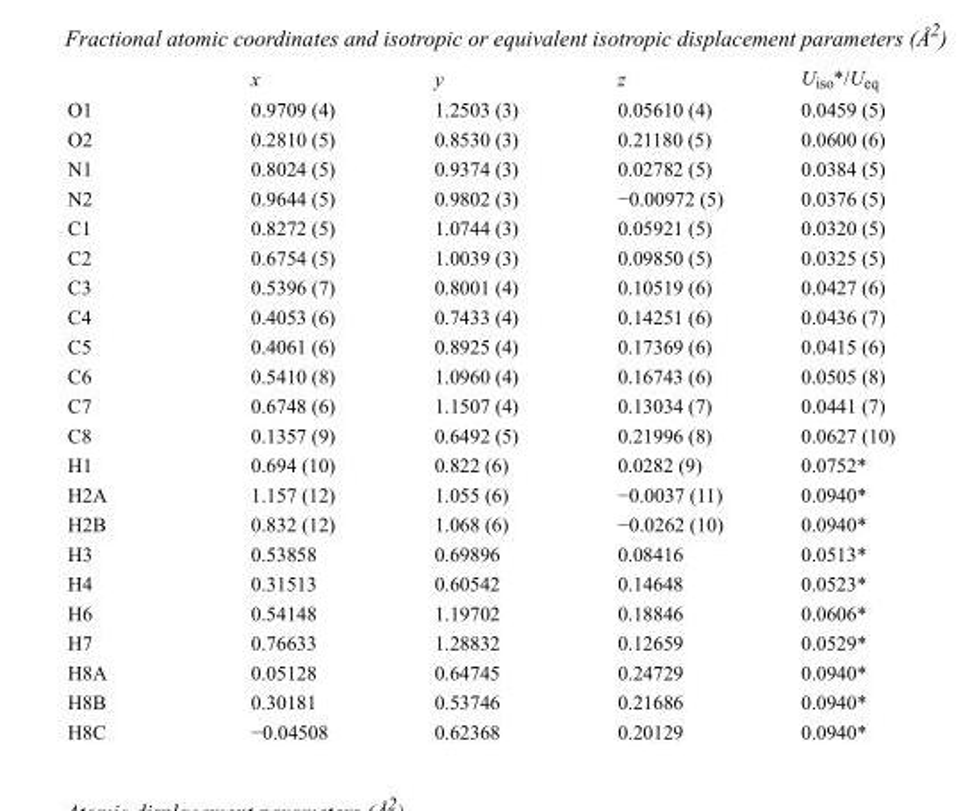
<table><thead><tr><td></td><td>x</td><td>y</td><td>z</td><td>U<sub>iso</sub>*/U<sub>eq</sub></td></tr></thead><tbody><tr><td>O1</td><td>0.9709 (4)</td><td>1.2503 (3)</td><td>0.05610 (4)</td><td>0.0459 (5)</td></tr><tr><td>O2</td><td>0.2810 (5)</td><td>0.8530 (3)</td><td>0.21180 (5)</td><td>0.0600 (6)</td></tr><tr><td>N1</td><td>0.8024 (5)</td><td>0.9374 (3)</td><td>0.02782 (5)</td><td>0.0384 (5)</td></tr><tr><td>N2</td><td>0.9644 (5)</td><td>0.9802 (3)</td><td>−0.00972 (5)</td><td>0.0376 (5)</td></tr><tr><td>C1</td><td>0.8272 (5)</td><td>1.0744 (3)</td><td>0.05921 (5)</td><td>0.0320 (5)</td></tr><tr><td>C2</td><td>0.6754 (5)</td><td>1.0039 (3)</td><td>0.09850 (5)</td><td>0.0325 (5)</td></tr><tr><td>C3</td><td>0.5396 (7)</td><td>0.8001 (4)</td><td>0.10519 (6)</td><td>0.0427 (6)</td></tr><tr><td>C4</td><td>0.4053 (6)</td><td>0.7433 (4)</td><td>0.14251 (6)</td><td>0.0436 (7)</td></tr><tr><td>C5</td><td>0.4061 (6)</td><td>0.8925 (4)</td><td>0.17369 (6)</td><td>0.0415 (6)</td></tr><tr><td>C6</td><td>0.5410 (8)</td><td>1.0960 (4)</td><td>0.16743 (6)</td><td>0.0505 (8)</td></tr><tr><td>C7</td><td>0.6748 (6)</td><td>1.1507 (4)</td><td>0.13034 (7)</td><td>0.0441 (7)</td></tr><tr><td>C8</td><td>0.1357 (9)</td><td>0.6492 (5)</td><td>0.21996 (8)</td><td>0.0627 (10)</td></tr><tr><td>H1</td><td>0.694 (10)</td><td>0.822 (6)</td><td>0.0282 (9)</td><td>0.0752*</td></tr><tr><td>H2A</td><td>1.157 (12)</td><td>1.055 (6)</td><td>−0.0037 (11)</td><td>0.0940*</td></tr><tr><td>H2B</td><td>0.832 (12)</td><td>1.068 (6)</td><td>−0.0262 (10)</td><td>0.0940*</td></tr><tr><td>H3</td><td>0.53858</td><td>0.69896</td><td>0.08416</td><td>0.0513*</td></tr><tr><td>H4</td><td>0.31513</td><td>0.60542</td><td>0.14648</td><td>0.0523*</td></tr><tr><td>H6</td><td>0.54148</td><td>1.19702</td><td>0.18846</td><td>0.0606*</td></tr><tr><td>H7</td><td>0.76633</td><td>1.28832</td><td>0.12659</td><td>0.0529*</td></tr><tr><td>H8A</td><td>0.05128</td><td>0.64745</td><td>0.24729</td><td>0.0940*</td></tr><tr><td>H8B</td><td>0.30181</td><td>0.53746</td><td>0.21686</td><td>0.0940*</td></tr><tr><td>H8C</td><td>−0.04508</td><td>0.62368</td><td>0.20129</td><td>0.0940*</td></tr></tbody></table>